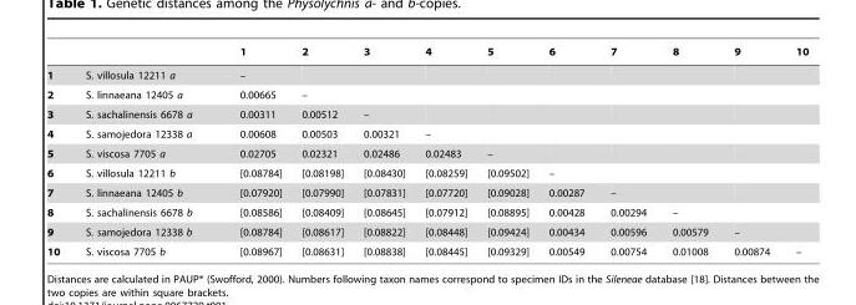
<table><thead><tr><td></td><td></td><td>1</td><td>2</td><td>3</td><td>4</td><td>5</td><td>6</td><td>7</td><td>8</td><td>9</td><td>10</td></tr></thead><tbody><tr><td>1</td><td>S. villosula 12211 a</td><td>–</td><td></td><td></td><td></td><td></td><td></td><td></td><td></td><td></td><td></td></tr><tr><td>2</td><td>S. linnaeana 12405 a</td><td>0.00665</td><td>–</td><td></td><td></td><td></td><td></td><td></td><td></td><td></td><td></td></tr><tr><td>3</td><td>S. sachalinensis 6678 a</td><td>0.00311</td><td>0.00512</td><td>–</td><td></td><td></td><td></td><td></td><td></td><td></td><td></td></tr><tr><td>4</td><td>S. samojedora 12338 a</td><td>0.00608</td><td>0.00503</td><td>0.00321</td><td>–</td><td></td><td></td><td></td><td></td><td></td><td></td></tr><tr><td>5</td><td>S. viscosa 7705 a</td><td>0.02705</td><td>0.02321</td><td>0.02486</td><td>0.02483</td><td>–</td><td></td><td></td><td></td><td></td><td></td></tr><tr><td>6</td><td>S. villosula 12211 b</td><td>[0.08784]</td><td>[0.08198]</td><td>[0.08430]</td><td>[0.08259]</td><td>[0.09502]</td><td>–</td><td></td><td></td><td></td><td></td></tr><tr><td>7</td><td>S. linnaeana 12405 b</td><td>[0.07920]</td><td>[0.07990]</td><td>[0.07831]</td><td>[0.07720]</td><td>[0.09028]</td><td>0.00287</td><td>–</td><td></td><td></td><td></td></tr><tr><td>8</td><td>S. sachalinensis 6678 b</td><td>[0.08586]</td><td>[0.08409]</td><td>[0.08645]</td><td>[0.07912]</td><td>[0.08895]</td><td>0.00428</td><td>0.00294</td><td>–</td><td></td><td></td></tr><tr><td>9</td><td>S. samojedora 12338 b</td><td>[0.08784]</td><td>[0.08617]</td><td>[0.08822]</td><td>[0.08448]</td><td>[0.09424]</td><td>0.00434</td><td>0.00596</td><td>0.00579</td><td>–</td><td></td></tr><tr><td>10</td><td>S. viscosa 7705 b</td><td>[0.08967]</td><td>[0.08631]</td><td>[0.08838]</td><td>[0.08445]</td><td>[0.09329]</td><td>0.00549</td><td>0.00754</td><td>0.01008</td><td>0.00874</td><td>–</td></tr></tbody></table>